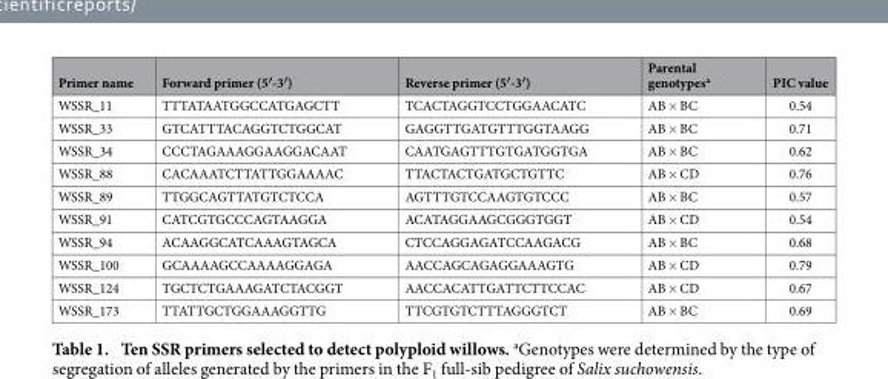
<table><thead><tr><td>Primer name</td><td>Forward primer (5′-3′)</td><td>Reverse primer (5′-3′)</td><td>Parental genotypes<sup>a</sup></td><td>PIC value</td></tr></thead><tbody><tr><td>WSSR_11</td><td>TTTATAATGGCCATGAGCTT</td><td>TCACTAGGTCCTGGAACATC</td><td>AB × BC</td><td>0.54</td></tr><tr><td>WSSR_33</td><td>GTCATTTACAGGTCTGGCAT</td><td>GAGGTTGATGTTTGGTAAGG</td><td>AB × BC</td><td>0.71</td></tr><tr><td>WSSR_34</td><td>CCCTAGAAAGGAAGGACAAT</td><td>CAATGAGTTTGTGATGGTGA</td><td>AB × BC</td><td>0.62</td></tr><tr><td>WSSR_88</td><td>CACAAATCTTATTGGAAAAC</td><td>TTACTACTGATGCTGTTC</td><td>AB × CD</td><td>0.76</td></tr><tr><td>WSSR_89</td><td>TTGGCAGTTATGTCTCCA</td><td>AGTTTGTCCAAGTGTCCC</td><td>AB × BC</td><td>0.57</td></tr><tr><td>WSSR_91</td><td>CATCGTGCCCAGTAAGGA</td><td>ACATAGGAAGCGGGTGGT</td><td>AB × CD</td><td>0.54</td></tr><tr><td>WSSR_94</td><td>ACAAGGCATCAAAGTAGCA</td><td>CTCCAGGAGATCCAAGACG</td><td>AB × BC</td><td>0.68</td></tr><tr><td>WSSR_100</td><td>GCAAAAGCCAAAAGGAGA</td><td>AACCAGCAGAGGAAAGTG</td><td>AB × CD</td><td>0.79</td></tr><tr><td>WSSR_124</td><td>TGCTCTGAAAGATCTACGGT</td><td>AACCACATTGATTCTTCCAC</td><td>AB × CD</td><td>0.67</td></tr><tr><td>WSSR_173</td><td>TTATTGCTGGAAAGGTTG</td><td>TTCGTGTCTTTAGGGTCT</td><td>AB × BC</td><td>0.69</td></tr></tbody></table>